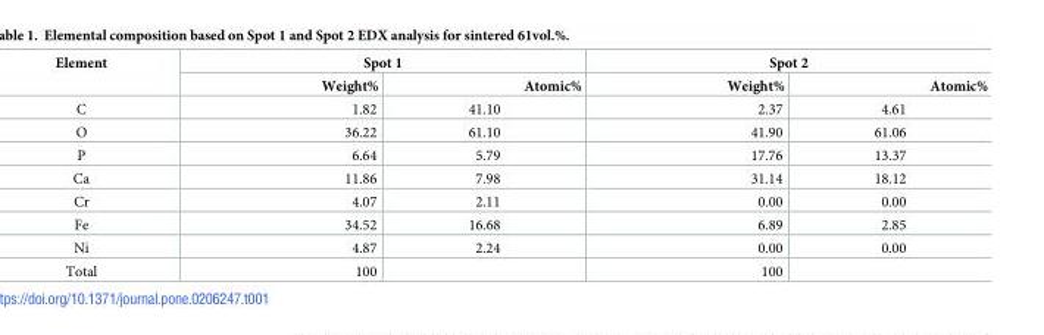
<table><thead><tr><td rowspan="2">Element</td><td colspan="2">Spot 1</td><td colspan="2">Spot 2</td></tr><tr><td>Weight%</td><td>Atomic%</td><td>Weight%</td><td>Atomic%</td></tr></thead><tbody><tr><td>C</td><td>1.82</td><td>41.10</td><td>2.37</td><td>4.61</td></tr><tr><td>O</td><td>36.22</td><td>61.10</td><td>41.90</td><td>61.06</td></tr><tr><td>P</td><td>6.64</td><td>5.79</td><td>17.76</td><td>13.37</td></tr><tr><td>Ca</td><td>11.86</td><td>7.98</td><td>31.14</td><td>18.12</td></tr><tr><td>Cr</td><td>4.07</td><td>2.11</td><td>0.00</td><td>0.00</td></tr><tr><td>Fe</td><td>34.52</td><td>16.68</td><td>6.89</td><td>2.85</td></tr><tr><td>Ni</td><td>4.87</td><td>2.24</td><td>0.00</td><td>0.00</td></tr><tr><td>Total</td><td>100</td><td></td><td>100</td><td></td></tr></tbody></table>